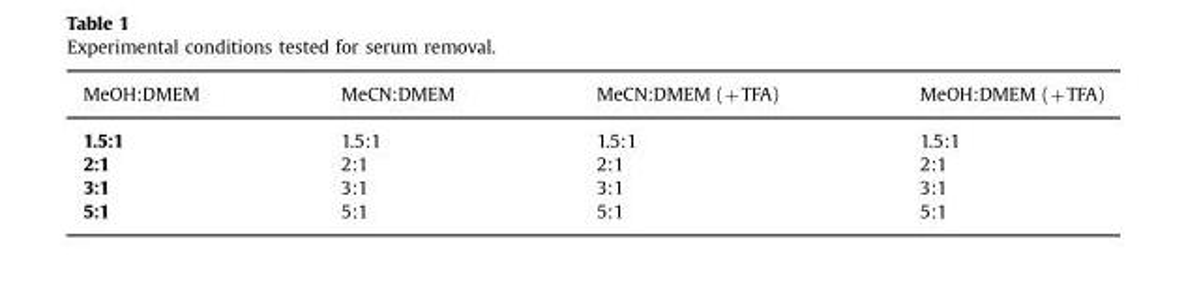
<table><thead><tr><td>MeOH:DMEM</td><td>MeCN:DMEM</td><td>MeCN:DMEM (+TFA)</td><td>MeOH:DMEM (+TFA)</td></tr></thead><tbody><tr><td>1.5:1</td><td>1.5:1</td><td>1.5:1</td><td>1.5:1</td></tr><tr><td>2:1</td><td>2:1</td><td>2:1</td><td>2:1</td></tr><tr><td>3:1</td><td>3:1</td><td>3:1</td><td>3:1</td></tr><tr><td>5:1</td><td>5:1</td><td>5:1</td><td>5:1</td></tr></tbody></table>